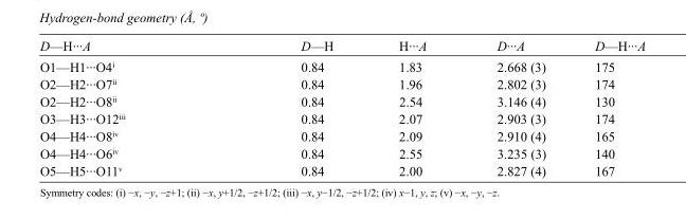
<table><tbody><tr><td>D—H···A</td><td>D—H</td><td>H···A</td><td>D···A</td><td>D—H···A</td></tr><tr><td>O1—H1···O4<sup>i</sup></td><td>0.84</td><td>1.83</td><td>2.668 (3)</td><td>175</td></tr><tr><td>O2—H2···O7<sup>ii</sup></td><td>0.84</td><td>1.96</td><td>2.802 (3)</td><td>174</td></tr><tr><td>O2—H2···O8<sup>ii</sup></td><td>0.84</td><td>2.54</td><td>3.146 (4)</td><td>130</td></tr><tr><td>O3—H3···O12<sup>iii</sup></td><td>0.84</td><td>2.07</td><td>2.903 (3)</td><td>174</td></tr><tr><td>O4—H4···O8<sup>iv</sup></td><td>0.84</td><td>2.09</td><td>2.910 (4)</td><td>165</td></tr><tr><td>O4—H4···O6<sup>iv</sup></td><td>0.84</td><td>2.55</td><td>3.235 (3)</td><td>140</td></tr><tr><td>O5—H5···O11<sup>v</sup></td><td>0.84</td><td>2.00</td><td>2.827 (4)</td><td>167</td></tr></tbody></table>